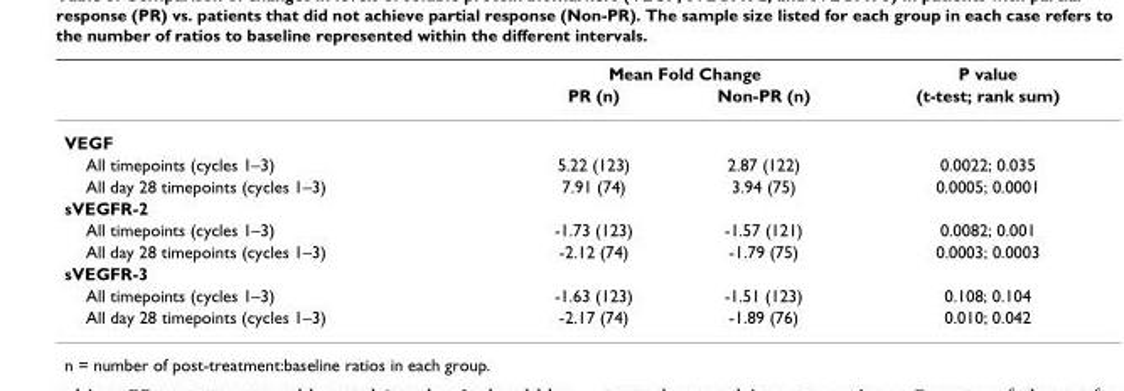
<table><thead><tr><td rowspan="2"></td><td colspan="2">Mean Fold Change</td><td rowspan="2">P value (t-test; rank sum)</td></tr><tr><td>PR (n)</td><td>Non-PR (n)</td></tr></thead><tbody><tr><td colspan="4">VEGF</td></tr><tr><td>All timepoints (cycles 1–3)</td><td>5.22 (123)</td><td>2.87 (122)</td><td>0.0022; 0.035</td></tr><tr><td>All day 28 timepoints (cycles 1–3)</td><td>7.91 (74)</td><td>3.94 (75)</td><td>0.0005; 0.0001</td></tr><tr><td colspan="4">sVEGFR-2</td></tr><tr><td>All timepoints (cycles 1–3)</td><td>-1.73 (123)</td><td>-1.57 (121)</td><td>0.0082; 0.001</td></tr><tr><td>All day 28 timepoints (cycles 1–3)</td><td>-2.12 (74)</td><td>-1.79 (75)</td><td>0.0003; 0.0003</td></tr><tr><td colspan="4">sVEGFR-3</td></tr><tr><td>All timepoints (cycles 1–3)</td><td>-1.63 (123)</td><td>-1.51 (123)</td><td>0.108; 0.104</td></tr><tr><td>All day 28 timepoints (cycles 1–3)</td><td>-2.17 (74)</td><td>-1.89 (76)</td><td>0.010; 0.042</td></tr></tbody></table>